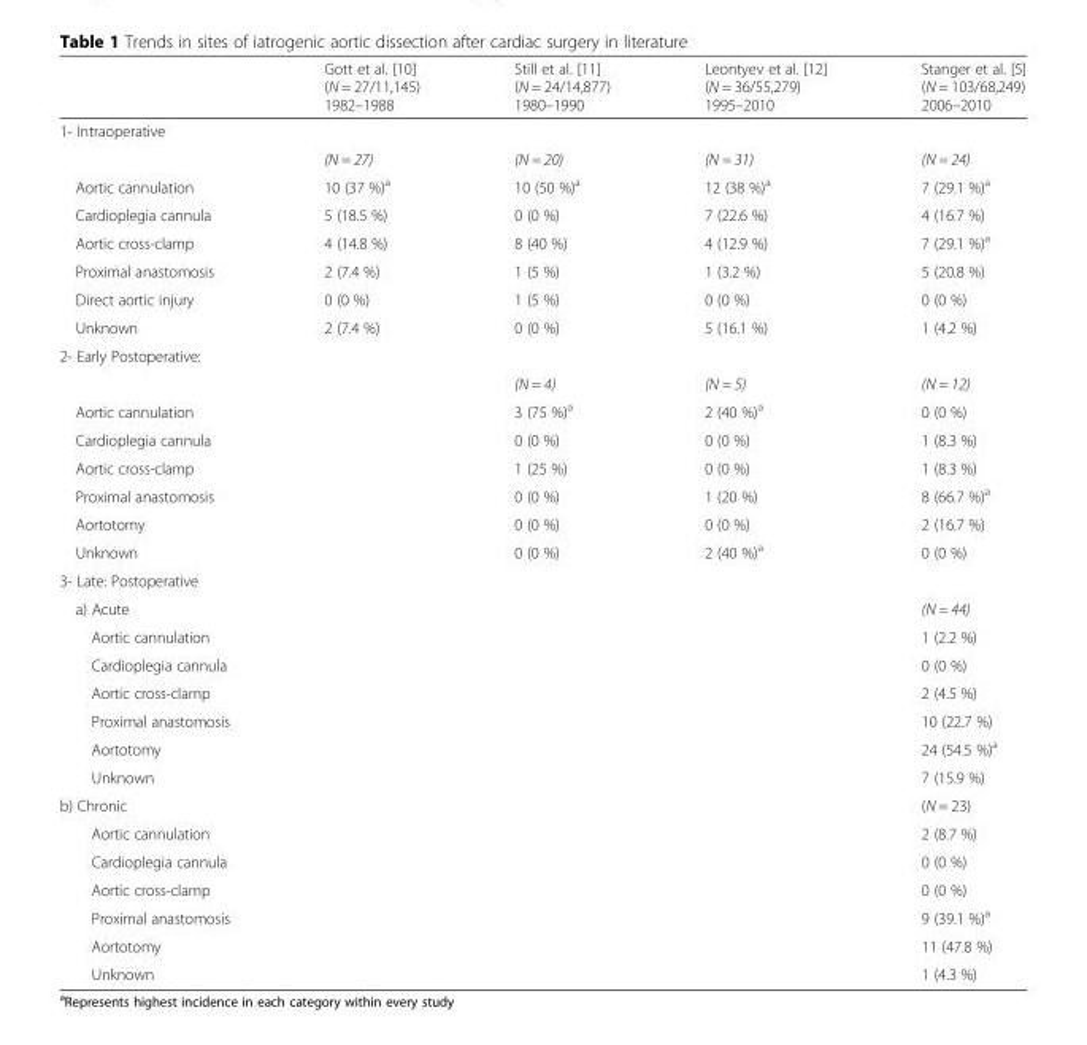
<table><thead><tr><td></td><td>Gott et al. [10] (N = 27/11,145) 1982–1988</td><td>Still et al. [11] (N = 24/14,877) 1980–1990</td><td>Leontyev et al. [12] (N = 36/55,279) 1995–2010</td><td>Stanger et al. [5] (N = 103/68,249) 2006–2010</td></tr></thead><tbody><tr><td colspan="5">1- Intraoperative</td></tr><tr><td></td><td>(N = 27)</td><td>(N = 20)</td><td>(N = 31)</td><td>(N = 24)</td></tr><tr><td>Aortic cannulation</td><td>10 (37 %)<sup>a</sup></td><td>10 (50 %)<sup>a</sup></td><td>12 (38 %)<sup>a</sup></td><td>7 (29.1 %)<sup>a</sup></td></tr><tr><td>Cardioplegia cannula</td><td>5 (18.5 %)</td><td>0 (0 %)</td><td>7 (22.6 %)</td><td>4 (16.7 %)</td></tr><tr><td>Aortic cross-clamp</td><td>4 (14.8 %)</td><td>8 (40 %)</td><td>4 (12.9 %)</td><td>7 (29.1 %)<sup>a</sup></td></tr><tr><td>Proximal anastomosis</td><td>2 (7.4 %)</td><td>1 (5 %)</td><td>1 (3.2 %)</td><td>5 (20.8 %)</td></tr><tr><td>Direct aortic injury</td><td>0 (0 %)</td><td>1 (5 %)</td><td>0 (0 %)</td><td>0 (0 %)</td></tr><tr><td>Unknown</td><td>2 (7.4 %)</td><td>0 (0 %)</td><td>5 (16.1 %)</td><td>1 (4.2 %)</td></tr><tr><td colspan="5">2- Early Postoperative:</td></tr><tr><td></td><td></td><td>(N = 4)</td><td>(N = 5)</td><td>(N = 12)</td></tr><tr><td>Aortic cannulation</td><td></td><td>3 (75 %)<sup>a</sup></td><td>2 (40 %)<sup>a</sup></td><td>0 (0 %)</td></tr><tr><td>Cardioplegia cannula</td><td></td><td>0 (0 %)</td><td>0 (0 %)</td><td>1 (8.3 %)</td></tr><tr><td>Aortic cross-clamp</td><td></td><td>1 (25 %)</td><td>0 (0 %)</td><td>1 (8.3 %)</td></tr><tr><td>Proximal anastomosis</td><td></td><td>0 (0 %)</td><td>1 (20 %)</td><td>8 (66.7 %)<sup>a</sup></td></tr><tr><td>Aortotomy</td><td></td><td>0 (0 %)</td><td>0 (0 %)</td><td>2 (16.7 %)</td></tr><tr><td>Unknown</td><td></td><td>0 (0 %)</td><td>2 (40 %)<sup>a</sup></td><td>0 (0 %)</td></tr><tr><td colspan="5">3- Late: Postoperative</td></tr><tr><td colspan="4">a) Acute</td><td>(N = 44)</td></tr><tr><td>Aortic cannulation</td><td></td><td></td><td></td><td>1 (2.2 %)</td></tr><tr><td>Cardioplegia cannula</td><td></td><td></td><td></td><td>0 (0 %)</td></tr><tr><td>Aortic cross-clamp</td><td></td><td></td><td></td><td>2 (4.5 %)</td></tr><tr><td>Proximal anastomosis</td><td></td><td></td><td></td><td>10 (22.7 %)</td></tr><tr><td>Aortotomy</td><td></td><td></td><td></td><td>24 (54.5 %)<sup>a</sup></td></tr><tr><td>Unknown</td><td></td><td></td><td></td><td>7 (15.9 %)</td></tr><tr><td colspan="4">b) Chronic</td><td>(N = 23)</td></tr><tr><td>Aortic cannulation</td><td></td><td></td><td></td><td>2 (8.7 %)</td></tr><tr><td>Cardioplegia cannula</td><td></td><td></td><td></td><td>0 (0 %)</td></tr><tr><td>Aortic cross-clamp</td><td></td><td></td><td></td><td>0 (0 %)</td></tr><tr><td>Proximal anastomosis</td><td></td><td></td><td></td><td>9 (39.1 %)<sup>a</sup></td></tr><tr><td>Aortotomy</td><td></td><td></td><td></td><td>11 (47.8 %)</td></tr><tr><td>Unknown</td><td></td><td></td><td></td><td>1 (4.3 %)</td></tr></tbody></table>